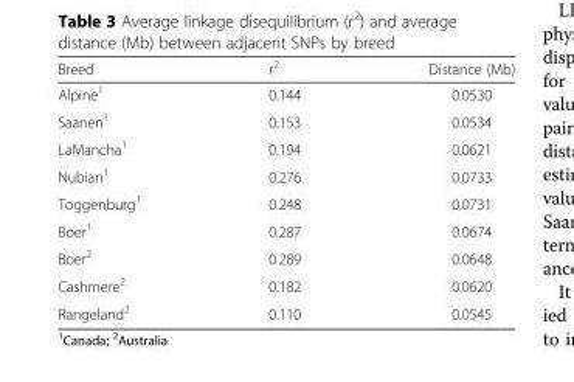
<table><thead><tr><td>Breed</td><td>r<sup>2</sup></td><td>Distance (Mb)</td></tr></thead><tbody><tr><td>Alpine<sup>1</sup></td><td>0.144</td><td>0.0530</td></tr><tr><td>Saanen<sup>1</sup></td><td>0.153</td><td>0.0534</td></tr><tr><td>LaMancha<sup>1</sup></td><td>0.194</td><td>0.0621</td></tr><tr><td>Nubian<sup>1</sup></td><td>0.276</td><td>0.0733</td></tr><tr><td>Toggenburg<sup>1</sup></td><td>0.248</td><td>0.0731</td></tr><tr><td>Boer<sup>1</sup></td><td>0.287</td><td>0.0674</td></tr><tr><td>Boer<sup>2</sup></td><td>0.289</td><td>0.0648</td></tr><tr><td>Cashmere<sup>2</sup></td><td>0.182</td><td>0.0620</td></tr><tr><td>Rangeland<sup>2</sup></td><td>0.110</td><td>0.0545</td></tr></tbody></table>